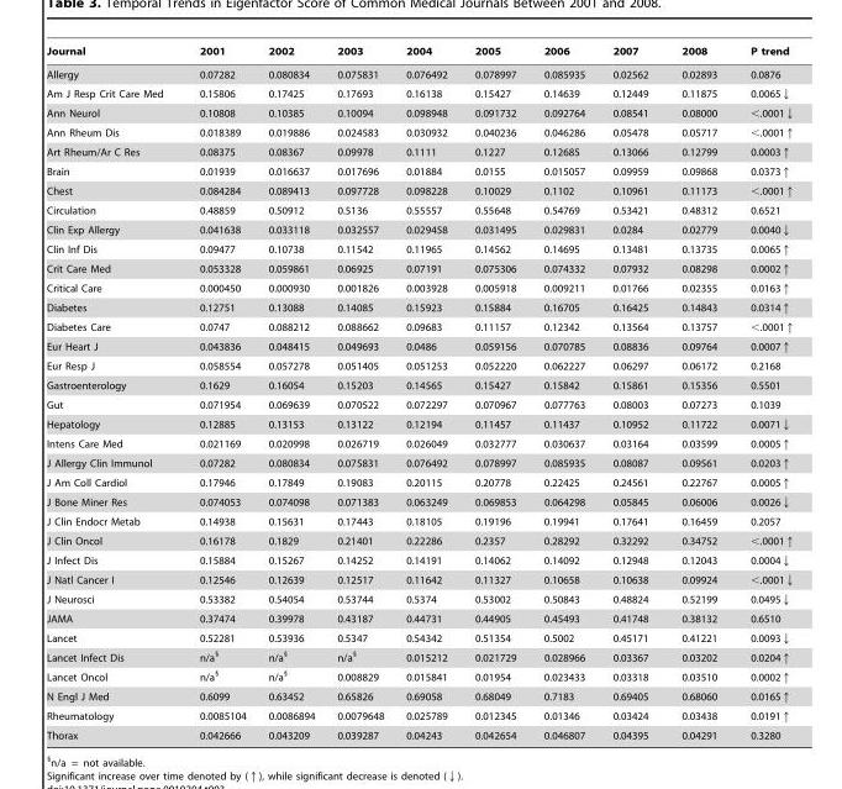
<table><thead><tr><td>Journal</td><td>2001</td><td>2002</td><td>2003</td><td>2004</td><td>2005</td><td>2006</td><td>2007</td><td>2008</td><td>P trend</td></tr></thead><tbody><tr><td>Allergy</td><td>0.07282</td><td>0.080834</td><td>0.075831</td><td>0.076492</td><td>0.078997</td><td>0.085935</td><td>0.02562</td><td>0.02893</td><td>0.0876</td></tr><tr><td>Am J Resp Crit Care Med</td><td>0.15806</td><td>0.17425</td><td>0.17693</td><td>0.16138</td><td>0.15427</td><td>0.14639</td><td>0.12449</td><td>0.11875</td><td>0.0065↓</td></tr><tr><td>Ann Neurol</td><td>0.10808</td><td>0.10385</td><td>0.10094</td><td>0.098948</td><td>0.091732</td><td>0.092764</td><td>0.08541</td><td>0.08000</td><td>&lt;.0001↓</td></tr><tr><td>Ann Rheum Dis</td><td>0.018389</td><td>0.019886</td><td>0.024583</td><td>0.030932</td><td>0.040236</td><td>0.046286</td><td>0.05478</td><td>0.05717</td><td>&lt;.0001↑</td></tr><tr><td>Art Rheum/Ar C Res</td><td>0.08375</td><td>0.08367</td><td>0.09978</td><td>0.1111</td><td>0.1227</td><td>0.12685</td><td>0.13066</td><td>0.12799</td><td>0.0003↑</td></tr><tr><td>Brain</td><td>0.01939</td><td>0.016637</td><td>0.017696</td><td>0.01884</td><td>0.0155</td><td>0.015057</td><td>0.09959</td><td>0.09868</td><td>0.0373↑</td></tr><tr><td>Chest</td><td>0.084284</td><td>0.089413</td><td>0.097728</td><td>0.098228</td><td>0.10029</td><td>0.1102</td><td>0.10961</td><td>0.11173</td><td>&lt;.0001↑</td></tr><tr><td>Circulation</td><td>0.48859</td><td>0.50912</td><td>0.5136</td><td>0.55557</td><td>0.55648</td><td>0.54769</td><td>0.53421</td><td>0.48312</td><td>0.6521</td></tr><tr><td>Clin Exp Allergy</td><td>0.041638</td><td>0.033118</td><td>0.032557</td><td>0.029458</td><td>0.031495</td><td>0.029831</td><td>0.0284</td><td>0.02779</td><td>0.0040↓</td></tr><tr><td>Clin Inf Dis</td><td>0.09477</td><td>0.10738</td><td>0.11542</td><td>0.11965</td><td>0.14562</td><td>0.14695</td><td>0.13481</td><td>0.13735</td><td>0.0065↑</td></tr><tr><td>Crit Care Med</td><td>0.053328</td><td>0.059861</td><td>0.06925</td><td>0.07191</td><td>0.075306</td><td>0.074332</td><td>0.07932</td><td>0.08298</td><td>0.0002↑</td></tr><tr><td>Critical Care</td><td>0.000450</td><td>0.000930</td><td>0.001826</td><td>0.003928</td><td>0.005918</td><td>0.009211</td><td>0.01766</td><td>0.02355</td><td>0.0163↑</td></tr><tr><td>Diabetes</td><td>0.12751</td><td>0.13088</td><td>0.14085</td><td>0.15923</td><td>0.15884</td><td>0.16705</td><td>0.16425</td><td>0.14843</td><td>0.0314↑</td></tr><tr><td>Diabetes Care</td><td>0.0747</td><td>0.088212</td><td>0.088662</td><td>0.09683</td><td>0.11157</td><td>0.12342</td><td>0.13564</td><td>0.13757</td><td>&lt;.0001↑</td></tr><tr><td>Eur Heart J</td><td>0.043836</td><td>0.048415</td><td>0.049693</td><td>0.0486</td><td>0.059156</td><td>0.070785</td><td>0.08836</td><td>0.09764</td><td>0.0007↑</td></tr><tr><td>Eur Resp J</td><td>0.058554</td><td>0.057278</td><td>0.051405</td><td>0.051253</td><td>0.052220</td><td>0.062227</td><td>0.06297</td><td>0.06172</td><td>0.2168</td></tr><tr><td>Gastroenterology</td><td>0.1629</td><td>0.16054</td><td>0.15203</td><td>0.14565</td><td>0.15427</td><td>0.15842</td><td>0.15861</td><td>0.15356</td><td>0.5501</td></tr><tr><td>Gut</td><td>0.071954</td><td>0.069639</td><td>0.070522</td><td>0.072297</td><td>0.070967</td><td>0.077763</td><td>0.08003</td><td>0.07273</td><td>0.1039</td></tr><tr><td>Hepatology</td><td>0.12885</td><td>0.13153</td><td>0.13122</td><td>0.12194</td><td>0.11457</td><td>0.11437</td><td>0.10952</td><td>0.11722</td><td>0.0071↓</td></tr><tr><td>Intens Care Med</td><td>0.021169</td><td>0.020998</td><td>0.026719</td><td>0.026049</td><td>0.032777</td><td>0.030637</td><td>0.03164</td><td>0.03599</td><td>0.0005↑</td></tr><tr><td>J Allergy Clin Immunol</td><td>0.07282</td><td>0.080834</td><td>0.075831</td><td>0.076492</td><td>0.078997</td><td>0.085935</td><td>0.08087</td><td>0.09561</td><td>0.0203↑</td></tr><tr><td>J Am Coll Cardiol</td><td>0.17946</td><td>0.17849</td><td>0.19083</td><td>0.20115</td><td>0.20778</td><td>0.22425</td><td>0.24561</td><td>0.22767</td><td>0.0005↑</td></tr><tr><td>J Bone Miner Res</td><td>0.074053</td><td>0.074098</td><td>0.071383</td><td>0.063249</td><td>0.069853</td><td>0.064298</td><td>0.05845</td><td>0.06006</td><td>0.0026↓</td></tr><tr><td>J Clin Endocr Metab</td><td>0.14938</td><td>0.15631</td><td>0.17443</td><td>0.18105</td><td>0.19196</td><td>0.19941</td><td>0.17641</td><td>0.16459</td><td>0.2057</td></tr><tr><td>J Clin Oncol</td><td>0.16178</td><td>0.1829</td><td>0.21401</td><td>0.22286</td><td>0.2357</td><td>0.28292</td><td>0.32292</td><td>0.34752</td><td>&lt;.0001↑</td></tr><tr><td>J Infect Dis</td><td>0.15884</td><td>0.15267</td><td>0.14252</td><td>0.14191</td><td>0.14062</td><td>0.14092</td><td>0.12948</td><td>0.12043</td><td>0.0004↓</td></tr><tr><td>J Natl Cancer I</td><td>0.12546</td><td>0.12639</td><td>0.12517</td><td>0.11642</td><td>0.11327</td><td>0.10658</td><td>0.10638</td><td>0.09924</td><td>&lt;.0001↓</td></tr><tr><td>J Neurosci</td><td>0.53382</td><td>0.54054</td><td>0.53744</td><td>0.5374</td><td>0.53002</td><td>0.50843</td><td>0.48824</td><td>0.52199</td><td>0.0495↓</td></tr><tr><td>JAMA</td><td>0.37474</td><td>0.39978</td><td>0.43187</td><td>0.44731</td><td>0.44905</td><td>0.45493</td><td>0.41748</td><td>0.38132</td><td>0.6510</td></tr><tr><td>Lancet</td><td>0.52281</td><td>0.53936</td><td>0.5347</td><td>0.54342</td><td>0.51354</td><td>0.5002</td><td>0.45171</td><td>0.41221</td><td>0.0093↓</td></tr><tr><td>Lancet Infect Dis</td><td>n/a§</td><td>n/a§</td><td>n/a§</td><td>0.015212</td><td>0.021729</td><td>0.028966</td><td>0.03367</td><td>0.03202</td><td>0.0204↑</td></tr><tr><td>Lancet Oncol</td><td>n/a§</td><td>n/a§</td><td>0.008829</td><td>0.015841</td><td>0.01954</td><td>0.023433</td><td>0.03318</td><td>0.03510</td><td>0.0002↑</td></tr><tr><td>N Engl J Med</td><td>0.6099</td><td>0.63452</td><td>0.65826</td><td>0.69058</td><td>0.68049</td><td>0.7183</td><td>0.69405</td><td>0.68060</td><td>0.0165↑</td></tr><tr><td>Rheumatology</td><td>0.0085104</td><td>0.0086894</td><td>0.0079648</td><td>0.025789</td><td>0.012345</td><td>0.01346</td><td>0.03424</td><td>0.03438</td><td>0.0191↑</td></tr><tr><td>Thorax</td><td>0.042666</td><td>0.043209</td><td>0.039287</td><td>0.04243</td><td>0.042654</td><td>0.046807</td><td>0.04395</td><td>0.04291</td><td>0.3280</td></tr></tbody></table>